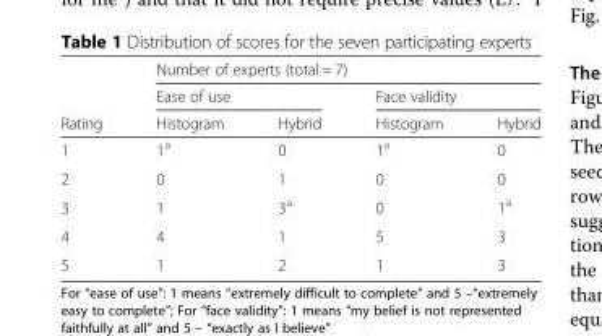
<table><thead><tr><td rowspan="3">Rating</td><td colspan="4">Number of experts (total = 7)</td></tr><tr><td colspan="2">Ease of use</td><td colspan="2">Face validity</td></tr><tr><td>Histogram</td><td>Hybrid</td><td>Histogram</td><td>Hybrid</td></tr></thead><tbody><tr><td>1</td><td>1<sup>a</sup></td><td>0</td><td>1<sup>a</sup></td><td>0</td></tr><tr><td>2</td><td>0</td><td>1</td><td>0</td><td>0</td></tr><tr><td>3</td><td>1</td><td>3<sup>a</sup></td><td>0</td><td>1<sup>a</sup></td></tr><tr><td>4</td><td>4</td><td>1</td><td>5</td><td>3</td></tr><tr><td>5</td><td>1</td><td>2</td><td>1</td><td>3</td></tr></tbody></table>